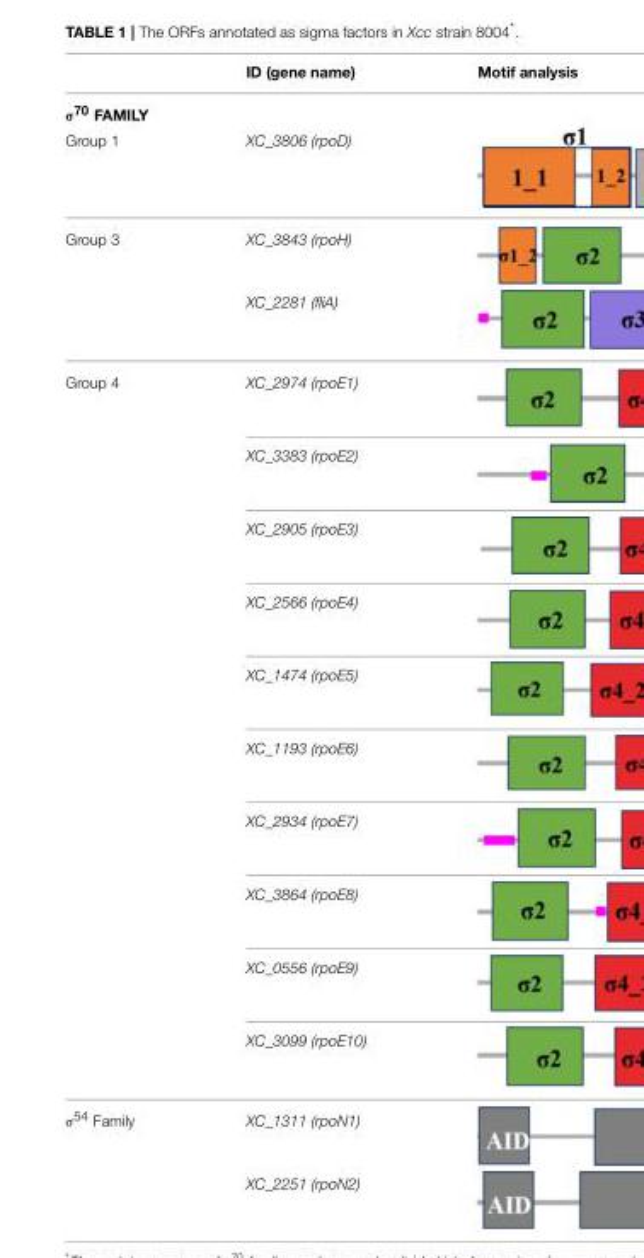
<table><thead><tr><td></td><td>ID (gene name)</td><td>Motif analysis</td></tr></thead><tbody><tr><td colspan="3">σ<sup>70</sup> FAMILY</td></tr><tr><td>Group 1</td><td>XC_3806 (rpoD)</td><td></td></tr><tr><td rowspan="2">Group 3</td><td>XC_3843 (rpoH)</td><td></td></tr><tr><td>XC_2281 (fliA)</td><td></td></tr><tr><td rowspan="10">Group 4</td><td>XC_2974 (rpoE1)</td><td></td></tr><tr><td>XC_3383 (rpoE2)</td><td></td></tr><tr><td>XC_2905 (rpoE3)</td><td></td></tr><tr><td>XC_2566 (rpoE4)</td><td></td></tr><tr><td>XC_1474 (rpoE5)</td><td></td></tr><tr><td>XC_1193 (rpoE6)</td><td></td></tr><tr><td>XC_2934 (rpoE7)</td><td></td></tr><tr><td>XC_3864 (rpoE8)</td><td></td></tr><tr><td>XC_0556 (rpoE9)</td><td></td></tr><tr><td>XC_3099 (rpoE10)</td><td></td></tr><tr><td rowspan="2">σ<sup>54</sup> Family</td><td>XC_1311 (rpoN1)</td><td></td></tr><tr><td>XC_2251 (rpoN2)</td><td></td></tr></tbody></table>